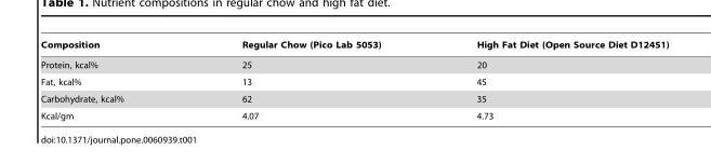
<table><thead><tr><td>Composition</td><td>Regular Chow (Pico Lab 5053)</td><td>High Fat Diet (Open Source Diet D12451)</td></tr></thead><tbody><tr><td>Protein, kcal%</td><td>25</td><td>20</td></tr><tr><td>Fat, kcal%</td><td>13</td><td>45</td></tr><tr><td>Carbohydrate, kcal%</td><td>62</td><td>35</td></tr><tr><td>Kcal/gm</td><td>4.07</td><td>4.73</td></tr></tbody></table>